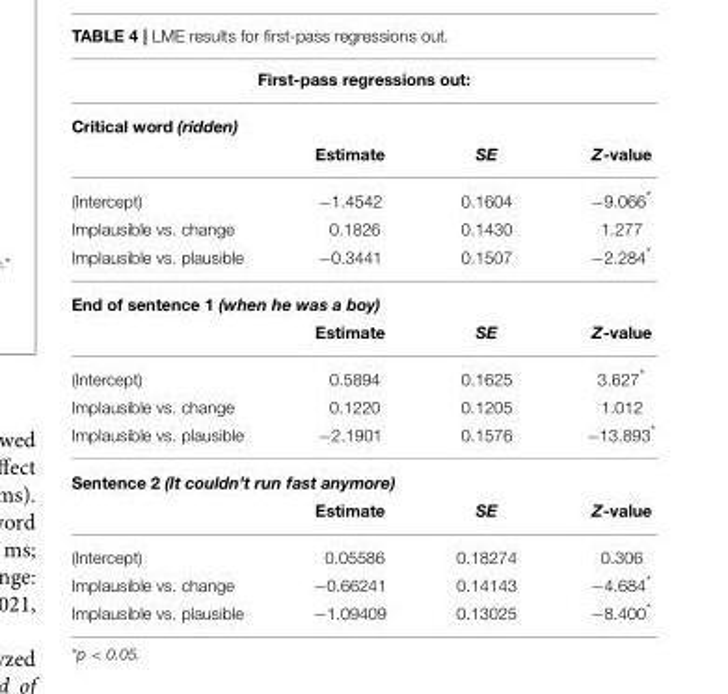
<table><thead><tr><td rowspan="2" colspan="4">First-pass regressions out: Critical word (ridden)</td></tr><tr></tr><tr><td></td><td>Estimate</td><td>SE</td><td>Z-value</td></tr></thead><tbody><tr><td>(Intercept)</td><td>−1.4542</td><td>0.1604</td><td>−9.066*</td></tr><tr><td>Implausible vs. change</td><td>0.1826</td><td>0.1430</td><td>1.277</td></tr><tr><td>Implausible vs. plausible</td><td>−0.3441</td><td>0.1507</td><td>−2.284*</td></tr><tr><td colspan="4">End of sentence 1 (when he was a boy)</td></tr><tr><td></td><td>Estimate</td><td>SE</td><td>Z-value</td></tr><tr><td>(Intercept)</td><td>0.5894</td><td>0.1625</td><td>3.627*</td></tr><tr><td>Implausible vs. change</td><td>0.1220</td><td>0.1205</td><td>1.012</td></tr><tr><td>Implausible vs. plausible</td><td>−2.1901</td><td>0.1576</td><td>−13.893*</td></tr><tr><td colspan="4">Sentence 2 (It couldn’t run fast anymore)</td></tr><tr><td></td><td>Estimate</td><td>SE</td><td>Z-value</td></tr><tr><td>(Intercept)</td><td>0.05586</td><td>0.18274</td><td>0.306</td></tr><tr><td>Implausible vs. change</td><td>−0.66241</td><td>0.14143</td><td>−4.684*</td></tr><tr><td>Implausible vs. plausible</td><td>−1.09409</td><td>0.13025</td><td>−8.400*</td></tr></tbody></table>